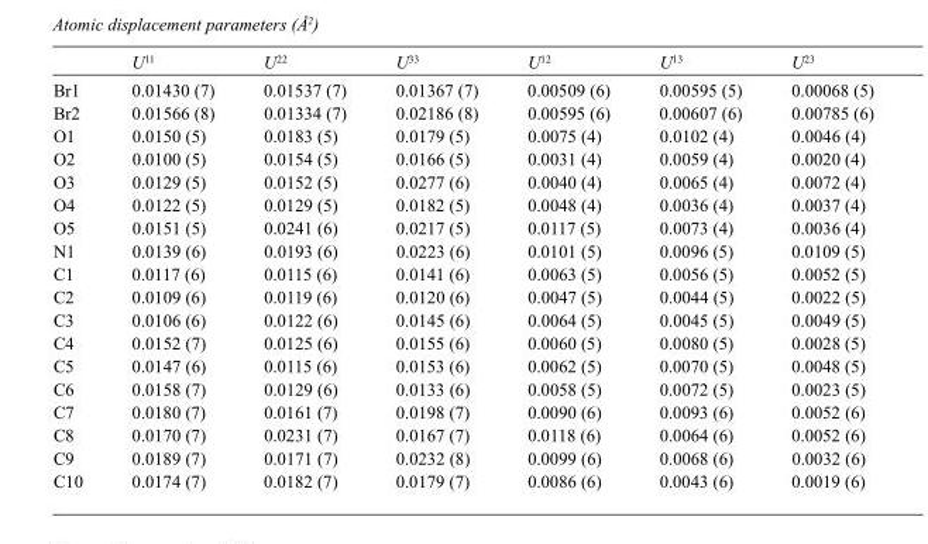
<table><thead><tr><td></td><td>U<sup>11</sup></td><td>U<sup>22</sup></td><td>U<sup>33</sup></td><td>U<sup>12</sup></td><td>U<sup>13</sup></td><td>U<sup>23</sup></td></tr></thead><tbody><tr><td>Br1</td><td>0.01430 (7)</td><td>0.01537 (7)</td><td>0.01367 (7)</td><td>0.00509 (6)</td><td>0.00595 (5)</td><td>0.00068 (5)</td></tr><tr><td>Br2</td><td>0.01566 (8)</td><td>0.01334 (7)</td><td>0.02186 (8)</td><td>0.00595 (6)</td><td>0.00607 (6)</td><td>0.00785 (6)</td></tr><tr><td>O1</td><td>0.0150 (5)</td><td>0.0183 (5)</td><td>0.0179 (5)</td><td>0.0075 (4)</td><td>0.0102 (4)</td><td>0.0046 (4)</td></tr><tr><td>O2</td><td>0.0100 (5)</td><td>0.0154 (5)</td><td>0.0166 (5)</td><td>0.0031 (4)</td><td>0.0059 (4)</td><td>0.0020 (4)</td></tr><tr><td>O3</td><td>0.0129 (5)</td><td>0.0152 (5)</td><td>0.0277 (6)</td><td>0.0040 (4)</td><td>0.0065 (4)</td><td>0.0072 (4)</td></tr><tr><td>O4</td><td>0.0122 (5)</td><td>0.0129 (5)</td><td>0.0182 (5)</td><td>0.0048 (4)</td><td>0.0036 (4)</td><td>0.0037 (4)</td></tr><tr><td>O5</td><td>0.0151 (5)</td><td>0.0241 (6)</td><td>0.0217 (5)</td><td>0.0117 (5)</td><td>0.0073 (4)</td><td>0.0036 (4)</td></tr><tr><td>N1</td><td>0.0139 (6)</td><td>0.0193 (6)</td><td>0.0223 (6)</td><td>0.0101 (5)</td><td>0.0096 (5)</td><td>0.0109 (5)</td></tr><tr><td>C1</td><td>0.0117 (6)</td><td>0.0115 (6)</td><td>0.0141 (6)</td><td>0.0063 (5)</td><td>0.0056 (5)</td><td>0.0052 (5)</td></tr><tr><td>C2</td><td>0.0109 (6)</td><td>0.0119 (6)</td><td>0.0120 (6)</td><td>0.0047 (5)</td><td>0.0044 (5)</td><td>0.0022 (5)</td></tr><tr><td>C3</td><td>0.0106 (6)</td><td>0.0122 (6)</td><td>0.0145 (6)</td><td>0.0064 (5)</td><td>0.0045 (5)</td><td>0.0049 (5)</td></tr><tr><td>C4</td><td>0.0152 (7)</td><td>0.0125 (6)</td><td>0.0155 (6)</td><td>0.0060 (5)</td><td>0.0080 (5)</td><td>0.0028 (5)</td></tr><tr><td>C5</td><td>0.0147 (6)</td><td>0.0115 (6)</td><td>0.0153 (6)</td><td>0.0062 (5)</td><td>0.0070 (5)</td><td>0.0048 (5)</td></tr><tr><td>C6</td><td>0.0158 (7)</td><td>0.0129 (6)</td><td>0.0133 (6)</td><td>0.0058 (5)</td><td>0.0072 (5)</td><td>0.0023 (5)</td></tr><tr><td>C7</td><td>0.0180 (7)</td><td>0.0161 (7)</td><td>0.0198 (7)</td><td>0.0090 (6)</td><td>0.0093 (6)</td><td>0.0052 (6)</td></tr><tr><td>C8</td><td>0.0170 (7)</td><td>0.0231 (7)</td><td>0.0167 (7)</td><td>0.0118 (6)</td><td>0.0064 (6)</td><td>0.0052 (6)</td></tr><tr><td>C9</td><td>0.0189 (7)</td><td>0.0171 (7)</td><td>0.0232 (8)</td><td>0.0099 (6)</td><td>0.0068 (6)</td><td>0.0032 (6)</td></tr><tr><td>C10</td><td>0.0174 (7)</td><td>0.0182 (7)</td><td>0.0179 (7)</td><td>0.0086 (6)</td><td>0.0043 (6)</td><td>0.0019 (6)</td></tr></tbody></table>